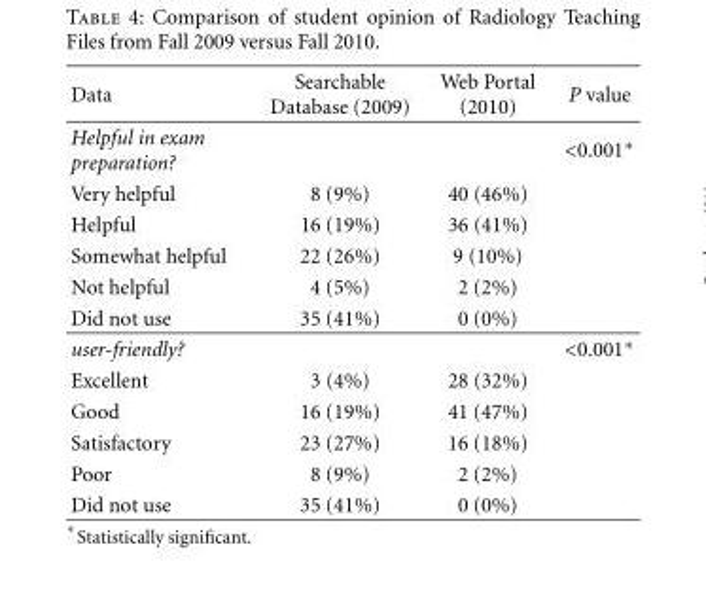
<table><thead><tr><td>Data</td><td>Searchable Database (2009)</td><td>Web Portal (2010)</td><td>P value</td></tr></thead><tbody><tr><td>Helpful in exam preparation?</td><td></td><td></td><td>&lt;0.001∗</td></tr><tr><td>Very helpful</td><td>8 (9%)</td><td>40 (46%)</td><td></td></tr><tr><td>Helpful</td><td>16 (19%)</td><td>36 (41%)</td><td></td></tr><tr><td>Somewhat helpful</td><td>22 (26%)</td><td>9 (10%)</td><td></td></tr><tr><td>Not helpful</td><td>4 (5%)</td><td>2 (2%)</td><td></td></tr><tr><td>Did not use</td><td>35 (41%)</td><td>0 (0%)</td><td></td></tr><tr><td>user-friendly?</td><td></td><td></td><td>&lt;0.001∗</td></tr><tr><td>Excellent</td><td>3 (4%)</td><td>28 (32%)</td><td></td></tr><tr><td>Good</td><td>16 (19%)</td><td>41 (47%)</td><td></td></tr><tr><td>Satisfactory</td><td>23 (27%)</td><td>16 (18%)</td><td></td></tr><tr><td>Poor</td><td>8 (9%)</td><td>2 (2%)</td><td></td></tr><tr><td>Did not use</td><td>35 (41%)</td><td>0 (0%)</td><td></td></tr></tbody></table>